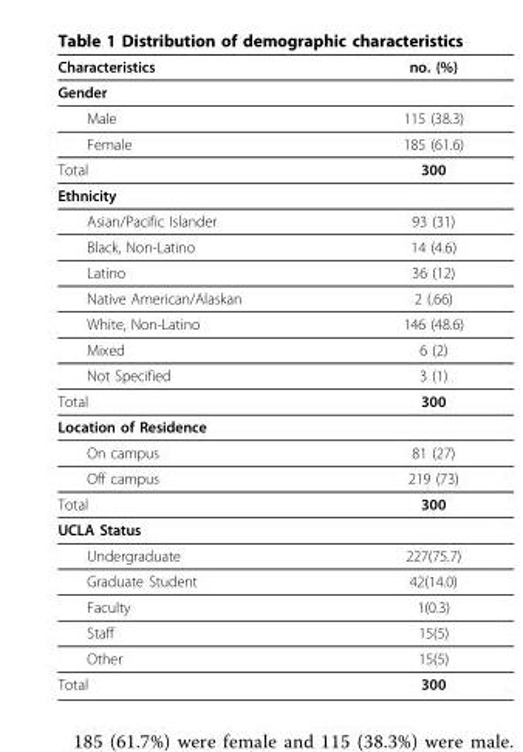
<table><thead><tr><td>Characteristics</td><td>no. (%)</td></tr></thead><tbody><tr><td colspan="2">Gender</td></tr><tr><td>Male</td><td>115 (38.3)</td></tr><tr><td>Female</td><td>185 (61.6)</td></tr><tr><td>Total</td><td>300</td></tr><tr><td colspan="2">Ethnicity</td></tr><tr><td>Asian/Pacific Islander</td><td>93 (31)</td></tr><tr><td>Black, Non-Latino</td><td>14 (4.6)</td></tr><tr><td>Latino</td><td>36 (12)</td></tr><tr><td>Native American/Alaskan</td><td>2 (.66)</td></tr><tr><td>White, Non-Latino</td><td>146 (48.6)</td></tr><tr><td>Mixed</td><td>6 (2)</td></tr><tr><td>Not Specified</td><td>3 (1)</td></tr><tr><td>Total</td><td>300</td></tr><tr><td colspan="2">Location of Residence</td></tr><tr><td>On campus</td><td>81 (27)</td></tr><tr><td>Off campus</td><td>219 (73)</td></tr><tr><td>Total</td><td>300</td></tr><tr><td colspan="2">UCLA Status</td></tr><tr><td>Undergraduate</td><td>227(75.7)</td></tr><tr><td>Graduate Student</td><td>42(14.0)</td></tr><tr><td>Faculty</td><td>1(0.3)</td></tr><tr><td>Staff</td><td>15(5)</td></tr><tr><td>Other</td><td>15(5)</td></tr><tr><td>Total</td><td>300</td></tr></tbody></table>